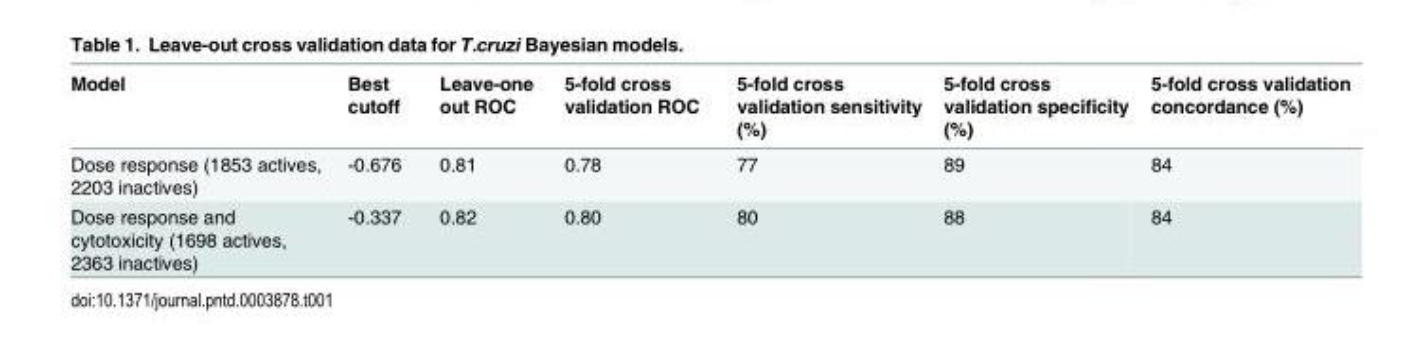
<table><thead><tr><td>Model</td><td>Best cutoff</td><td>Leave-one out ROC</td><td>5-fold cross validation ROC</td><td>5-fold cross validation sensitivity (%)</td><td>5-fold cross validation specificity (%)</td><td>5-fold cross validation concordance (%)</td></tr></thead><tbody><tr><td>Dose response (1853 actives, 2203 inactives)</td><td>-0.676</td><td>0.81</td><td>0.78</td><td>77</td><td>89</td><td>84</td></tr><tr><td>Dose response and cytotoxicity (1698 actives, 2363 inactives)</td><td>-0.337</td><td>0.82</td><td>0.80</td><td>80</td><td>88</td><td>84</td></tr></tbody></table>